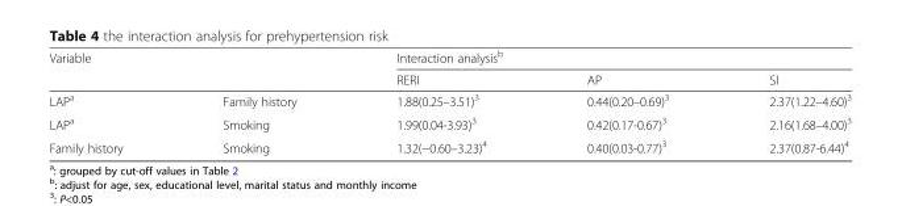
<table><thead><tr><td rowspan="2" colspan="2">Variable</td><td colspan="3">Interaction analysis<sup>b</sup></td></tr><tr><td rowspan="2">RERI 1.88(0.25–3.51)<sup>3</sup></td><td rowspan="2">AP 0.44(0.20–0.69)<sup>3</sup></td><td rowspan="2">SI 2.37(1.22–4.60)<sup>3</sup></td></tr><tr><td>LAP<sup>a</sup></td><td>Family history</td></tr></thead><tbody><tr><td>LAP<sup>a</sup></td><td>Smoking</td><td>1.99(0.04-3.93)<sup>3</sup></td><td>0.42(0.17-0.67)<sup>3</sup></td><td>2.16(1.68–4.00)<sup>3</sup></td></tr><tr><td>Family history</td><td>Smoking</td><td>1.32(−0.60–3.23)<sup>4</sup></td><td>0.40(0.03-0.77)<sup>3</sup></td><td>2.37(0.87-6.44)<sup>4</sup></td></tr></tbody></table>